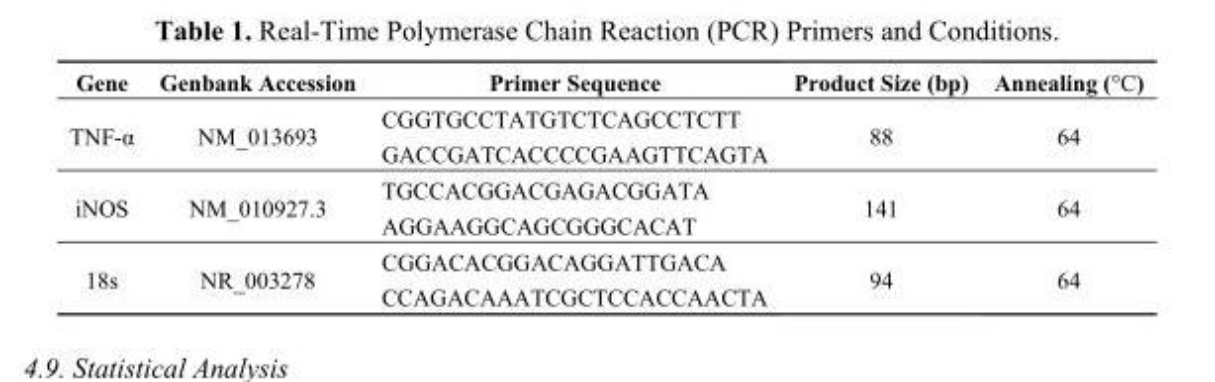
<table><thead><tr><td>Gene</td><td>Genbank Accession</td><td>Primer Sequence</td><td>Product Size (bp)</td><td>Annealing (°C)</td></tr></thead><tbody><tr><td rowspan="2">TNF-α</td><td rowspan="2">NM_013693</td><td>CGGTGCCTATGTCTCAGCCTCTT</td><td rowspan="2">88</td><td rowspan="2">64</td></tr><tr><td>GACCGATCACCCCGAAGTTCAGTA</td></tr><tr><td rowspan="2">iNOS</td><td rowspan="2">NM_010927.3</td><td>TGCCACGGACGAGACGGATA</td><td rowspan="2">141</td><td rowspan="2">64</td></tr><tr><td>AGGAAGGCAGCGGGCACAT</td></tr><tr><td rowspan="2">18s</td><td rowspan="2">NR_003278</td><td>CGGACACGGACAGGATTGACA</td><td rowspan="2">94</td><td rowspan="2">64</td></tr><tr><td>CCAGACAAATCGCTCCACCAACTA</td></tr></tbody></table>